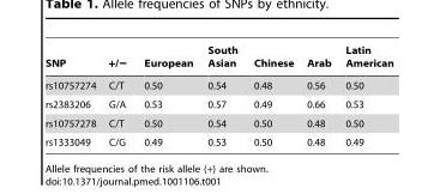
<table><thead><tr><td>SNP</td><td>+/−</td><td>European</td><td>South Asian</td><td>Chinese</td><td>Arab</td><td>Latin American</td></tr></thead><tbody><tr><td>rs10757274</td><td>C/T</td><td>0.50</td><td>0.54</td><td>0.48</td><td>0.56</td><td>0.50</td></tr><tr><td>rs2383206</td><td>G/A</td><td>0.53</td><td>0.57</td><td>0.49</td><td>0.66</td><td>0.53</td></tr><tr><td>rs10757278</td><td>C/T</td><td>0.50</td><td>0.54</td><td>0.50</td><td>0.48</td><td>0.50</td></tr><tr><td>rs1333049</td><td>C/G</td><td>0.49</td><td>0.53</td><td>0.50</td><td>0.48</td><td>0.49</td></tr></tbody></table>